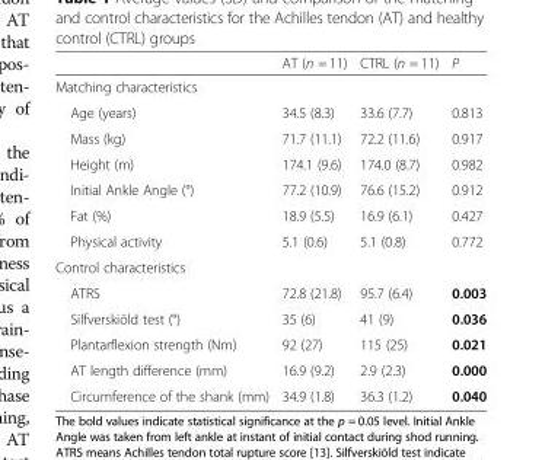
<table><thead><tr><td></td><td>AT (n = 11)</td><td>CTRL (n = 11)</td><td>P</td></tr></thead><tbody><tr><td colspan="4">Matching characteristics</td></tr><tr><td>Age (years)</td><td>34.5 (8.3)</td><td>33.6 (7.7)</td><td>0.813</td></tr><tr><td>Mass (kg)</td><td>71.7 (11.1)</td><td>72.2 (11.6)</td><td>0.917</td></tr><tr><td>Height (m)</td><td>174.1 (9.6)</td><td>174.0 (8.7)</td><td>0.982</td></tr><tr><td>Initial Ankle Angle (°)</td><td>77.2 (10.9)</td><td>76.6 (15.2)</td><td>0.912</td></tr><tr><td>Fat (%)</td><td>18.9 (5.5)</td><td>16.9 (6.1)</td><td>0.427</td></tr><tr><td>Physical activity</td><td>5.1 (0.6)</td><td>5.1 (0.8)</td><td>0.772</td></tr><tr><td colspan="4">Control characteristics</td></tr><tr><td>ATRS</td><td>72.8 (21.8)</td><td>95.7 (6.4)</td><td>0.003</td></tr><tr><td>Silfverskiöld test (°)</td><td>35 (6)</td><td>41 (9)</td><td>0.036</td></tr><tr><td>Plantarflexion strength (Nm)</td><td>92 (27)</td><td>115 (25)</td><td>0.021</td></tr><tr><td>AT length difference (mm)</td><td>16.9 (9.2)</td><td>2.9 (2.3)</td><td>0.000</td></tr><tr><td>Circumference of the shank (mm)</td><td>34.9 (1.8)</td><td>36.3 (1.2)</td><td>0.040</td></tr></tbody></table>